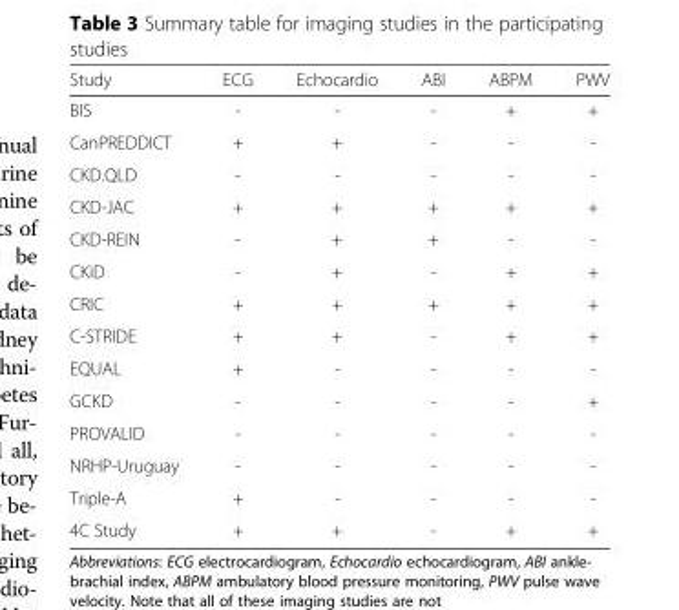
<table><thead><tr><td>Study</td><td>ECG</td><td>Echocardio</td><td>ABI</td><td>ABPM</td><td>PWV</td></tr></thead><tbody><tr><td>BIS</td><td>-</td><td>-</td><td>-</td><td>+</td><td>+</td></tr><tr><td>CanPREDDICT</td><td>+</td><td>+</td><td>-</td><td>-</td><td>-</td></tr><tr><td>CKD.QLD</td><td>-</td><td>-</td><td>-</td><td>-</td><td>-</td></tr><tr><td>CKD-JAC</td><td>+</td><td>+</td><td>+</td><td>+</td><td>+</td></tr><tr><td>CKD-REIN</td><td>-</td><td>+</td><td>+</td><td>-</td><td>-</td></tr><tr><td>CKiD</td><td>-</td><td>+</td><td>-</td><td>+</td><td>+</td></tr><tr><td>CRIC</td><td>+</td><td>+</td><td>+</td><td>+</td><td>+</td></tr><tr><td>C-STRIDE</td><td>+</td><td>+</td><td>-</td><td>+</td><td>+</td></tr><tr><td>EQUAL</td><td>+</td><td>-</td><td>-</td><td>-</td><td>-</td></tr><tr><td>GCKD</td><td>-</td><td>-</td><td>-</td><td>-</td><td>+</td></tr><tr><td>PROVALID</td><td>-</td><td>-</td><td>-</td><td>-</td><td>-</td></tr><tr><td>NRHP-Uruguay</td><td>-</td><td>-</td><td>-</td><td>-</td><td>-</td></tr><tr><td>Triple-A</td><td>+</td><td>-</td><td>-</td><td>-</td><td>-</td></tr><tr><td>4C Study</td><td>+</td><td>+</td><td>-</td><td>+</td><td>+</td></tr></tbody></table>